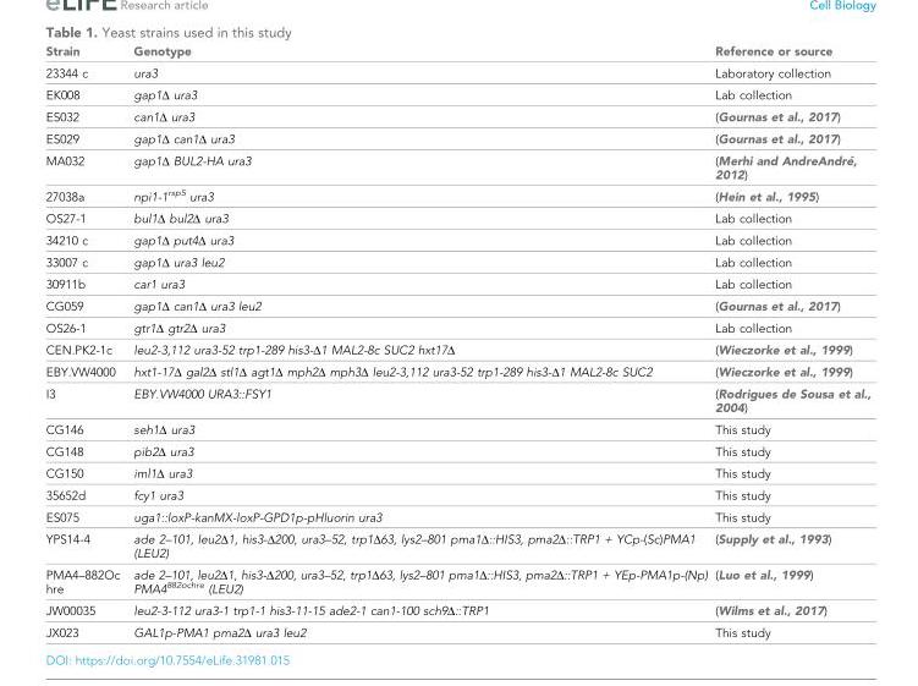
<table><thead><tr><td>Strain</td><td>Genotype</td><td>Reference or source</td></tr></thead><tbody><tr><td>23344 c</td><td>ura3</td><td>Laboratory collection</td></tr><tr><td>EK008</td><td>gap1Δ ura3</td><td>Lab collection</td></tr><tr><td>ES032</td><td>can1Δ ura3</td><td>(Gournas et al., 2017)</td></tr><tr><td>ES029</td><td>gap1Δ can1Δ ura3</td><td>(Gournas et al., 2017)</td></tr><tr><td>MA032</td><td>gap1Δ BUL2-HA ura3</td><td>(Merhi and AndreAndre´, 2012)</td></tr><tr><td>27038a</td><td>npi1-1<sup>rsp5</sup> ura3</td><td>(Hein et al., 1995)</td></tr><tr><td>OS27-1</td><td>bul1Δ bul2Δ ura3</td><td>Lab collection</td></tr><tr><td>34210 c</td><td>gap1Δ put4Δ ura3</td><td>Lab collection</td></tr><tr><td>33007 c</td><td>gap1Δ ura3 leu2</td><td>Lab collection</td></tr><tr><td>30911b</td><td>car1 ura3</td><td>Lab collection</td></tr><tr><td>CG059</td><td>gap1Δ can1Δ ura3 leu2</td><td>(Gournas et al., 2017)</td></tr><tr><td>OS26-1</td><td>gtr1Δ gtr2Δ ura3</td><td>Lab collection</td></tr><tr><td>CEN.PK2-1c</td><td>leu2-3,112 ura3-52 trp1-289 his3-Δ1 MAL2-8c SUC2 hxt17Δ</td><td>(Wieczorke et al., 1999)</td></tr><tr><td>EBY.VW4000</td><td>hxt1-17Δ gal2Δ stl1Δ agt1Δ mph2Δ mph3Δ leu2-3,112 ura3-52 trp1-289 his3-Δ1 MAL2-8c SUC2</td><td>(Wieczorke et al., 1999)</td></tr><tr><td>I3</td><td>EBY.VW4000 URA3::FSY1</td><td>(Rodrigues de Sousa et al., 2004)</td></tr><tr><td>CG146</td><td>seh1Δ ura3</td><td>This study</td></tr><tr><td>CG148</td><td>pib2Δ ura3</td><td>This study</td></tr><tr><td>CG150</td><td>iml1Δ ura3</td><td>This study</td></tr><tr><td>35652d</td><td>fcy1 ura3</td><td>This study</td></tr><tr><td>ES075</td><td>uga1::loxP-kanMX-loxP-GPD1p-pHluorin ura3</td><td>This study</td></tr><tr><td>YPS14-4</td><td>ade 2–101, leu2Δ1, his3-Δ200, ura3–52, trp1Δ63, lys2–801 pma1Δ::HIS3, pma2Δ::TRP1 + YCp-(Sc)PMA1 (LEU2)</td><td>(Supply et al., 1993)</td></tr><tr><td>PMA4–882Oc hre</td><td>ade 2–101, leu2Δ1, his3-Δ200, ura3–52, trp1Δ63, lys2–801 pma1Δ::HIS3, pma2Δ::TRP1 + YEp-PMA1p-(Np) PMA4<sup>882ochre</sup> (LEU2)</td><td>(Luo et al., 1999)</td></tr><tr><td>JW00035</td><td>leu2-3-112 ura3-1 trp1-1 his3-11-15 ade2-1 can1-100 sch9Δ::TRP1</td><td>(Wilms et al., 2017)</td></tr><tr><td>JX023</td><td>GAL1p-PMA1 pma2Δ ura3 leu2</td><td>This study</td></tr></tbody></table>